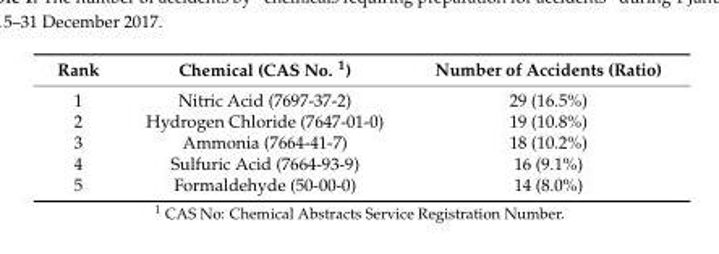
<table><thead><tr><td>Rank</td><td>Chemical (CAS No. <sup>1</sup>)</td><td>Number of Accidents (Ratio)</td></tr></thead><tbody><tr><td>1</td><td>Nitric Acid (7697-37-2)</td><td>29 (16.5%)</td></tr><tr><td>2</td><td>Hydrogen Chloride (7647-01-0)</td><td>19 (10.8%)</td></tr><tr><td>3</td><td>Ammonia (7664-41-7)</td><td>18 (10.2%)</td></tr><tr><td>4</td><td>Sulfuric Acid (7664-93-9)</td><td>16 (9.1%)</td></tr><tr><td>5</td><td>Formaldehyde (50-00-0)</td><td>14 (8.0%)</td></tr></tbody></table>